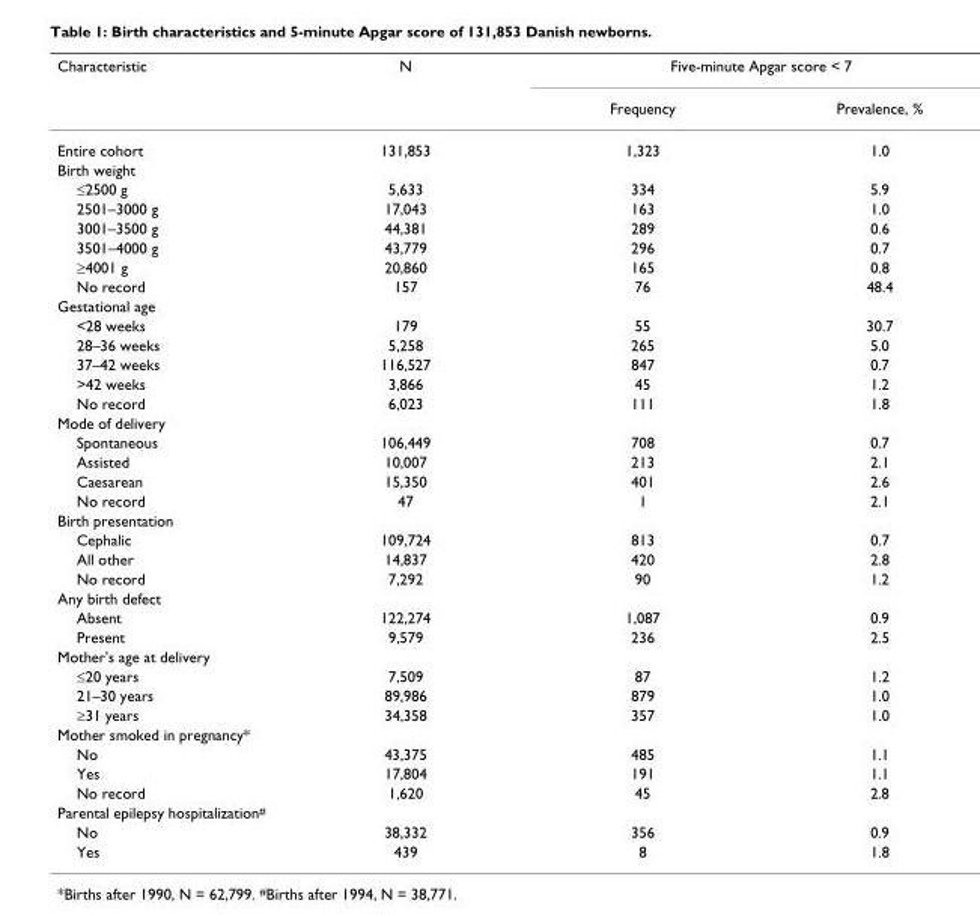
<table><thead><tr><td rowspan="2">Characteristic</td><td rowspan="2">N</td><td colspan="2">Five-minute Apgar score &lt; 7</td></tr><tr><td>Frequency</td><td>Prevalence, %</td></tr></thead><tbody><tr><td>Entire cohort</td><td>131,853</td><td>1,323</td><td>1.0</td></tr><tr><td colspan="4">Birth weight</td></tr><tr><td>≤2500 g</td><td>5,633</td><td>334</td><td>5.9</td></tr><tr><td>2501–3000 g</td><td>17,043</td><td>163</td><td>1.0</td></tr><tr><td>3001–3500 g</td><td>44,381</td><td>289</td><td>0.6</td></tr><tr><td>3501–4000 g</td><td>43,779</td><td>296</td><td>0.7</td></tr><tr><td>≥4001 g</td><td>20,860</td><td>165</td><td>0.8</td></tr><tr><td>No record</td><td>157</td><td>76</td><td>48.4</td></tr><tr><td colspan="4">Gestational age</td></tr><tr><td>&lt;28 weeks</td><td>179</td><td>55</td><td>30.7</td></tr><tr><td>28–36 weeks</td><td>5,258</td><td>265</td><td>5.0</td></tr><tr><td>37–42 weeks</td><td>116,527</td><td>847</td><td>0.7</td></tr><tr><td>&gt;42 weeks</td><td>3,866</td><td>45</td><td>1.2</td></tr><tr><td>No record</td><td>6,023</td><td>111</td><td>1.8</td></tr><tr><td colspan="4">Mode of delivery</td></tr><tr><td>Spontaneous</td><td>106,449</td><td>708</td><td>0.7</td></tr><tr><td>Assisted</td><td>10,007</td><td>213</td><td>2.1</td></tr><tr><td>Caesarean</td><td>15,350</td><td>401</td><td>2.6</td></tr><tr><td>No record</td><td>47</td><td>1</td><td>2.1</td></tr><tr><td colspan="4">Birth presentation</td></tr><tr><td>Cephalic</td><td>109,724</td><td>813</td><td>0.7</td></tr><tr><td>All other</td><td>14,837</td><td>420</td><td>2.8</td></tr><tr><td>No record</td><td>7,292</td><td>90</td><td>1.2</td></tr><tr><td colspan="4">Any birth defect</td></tr><tr><td>Absent</td><td>122,274</td><td>1,087</td><td>0.9</td></tr><tr><td>Present</td><td>9,579</td><td>236</td><td>2.5</td></tr><tr><td colspan="4">Mother&#x27;s age at delivery</td></tr><tr><td>≤20 years</td><td>7,509</td><td>87</td><td>1.2</td></tr><tr><td>21–30 years</td><td>89,986</td><td>879</td><td>1.0</td></tr><tr><td>≥31 years</td><td>34,358</td><td>357</td><td>1.0</td></tr><tr><td colspan="4">Mother smoked in pregnancy*</td></tr><tr><td>No</td><td>43,375</td><td>485</td><td>1.1</td></tr><tr><td>Yes</td><td>17,804</td><td>191</td><td>1.1</td></tr><tr><td>No record</td><td>1,620</td><td>45</td><td>2.8</td></tr><tr><td colspan="4">Parental epilepsy hospitalization#</td></tr><tr><td>No</td><td>38,332</td><td>356</td><td>0.9</td></tr><tr><td>Yes</td><td>439</td><td>8</td><td>1.8</td></tr></tbody></table>